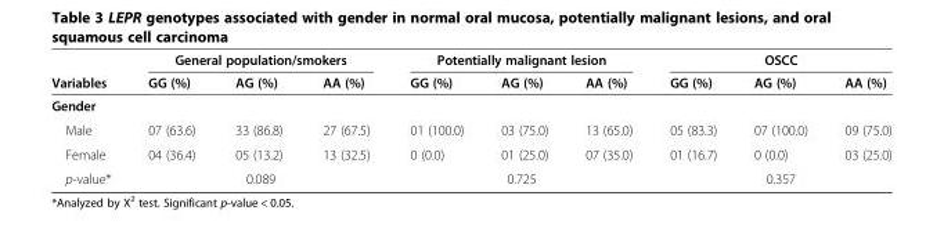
<table><thead><tr><td rowspan="2">Variables</td><td colspan="3">General population/smokers</td><td colspan="3">Potentially malignant lesion</td><td colspan="3">OSCC</td></tr><tr><td>GG (%)</td><td>AG (%)</td><td>AA (%)</td><td>GG (%)</td><td>AG (%)</td><td>AA (%)</td><td>GG (%)</td><td>AG (%)</td><td>AA (%)</td></tr></thead><tbody><tr><td colspan="10">Gender</td></tr><tr><td>Male</td><td>07 (63.6)</td><td>33 (86.8)</td><td>27 (67.5)</td><td>01 (100.0)</td><td>03 (75.0)</td><td>13 (65.0)</td><td>05 (83.3)</td><td>07 (100.0)</td><td>09 (75.0)</td></tr><tr><td>Female</td><td>04 (36.4)</td><td>05 (13.2)</td><td>13 (32.5)</td><td>0 (0.0)</td><td>01 (25.0)</td><td>07 (35.0)</td><td>01 (16.7)</td><td>0 (0.0)</td><td>03 (25.0)</td></tr><tr><td>p-value*</td><td></td><td>0.089</td><td></td><td></td><td>0.725</td><td></td><td></td><td>0.357</td><td></td></tr></tbody></table>